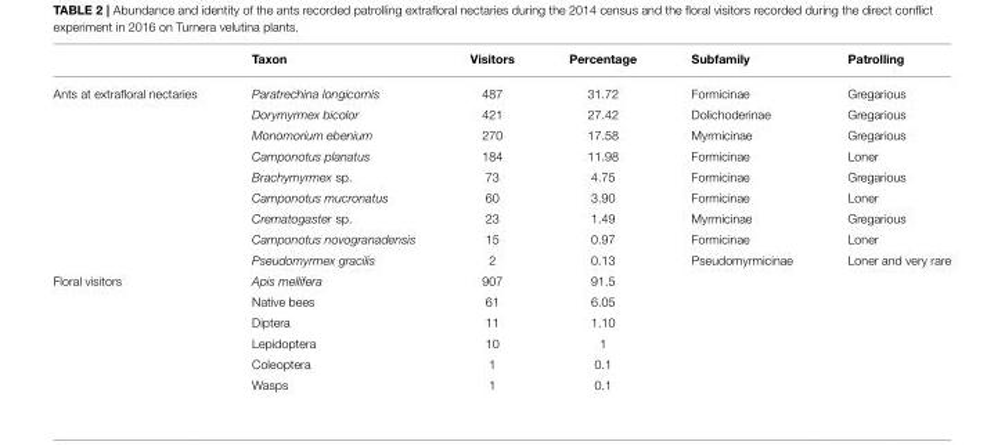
<table><thead><tr><td></td><td>Taxon</td><td>Visitors</td><td>Percentage</td><td>Subfamily</td><td>Patrolling</td></tr></thead><tbody><tr><td rowspan="9">Ants at extrafloral nectaries</td><td>Paratrechina longicornis</td><td>487</td><td>31.72</td><td>Formicinae</td><td>Gregarious</td></tr><tr><td>Dorymyrmex bicolor</td><td>421</td><td>27.42</td><td>Dolichoderinae</td><td>Gregarious</td></tr><tr><td>Monomorium ebenium</td><td>270</td><td>17.58</td><td>Myrmicinae</td><td>Gregarious</td></tr><tr><td>Camponotus planatus</td><td>184</td><td>11.98</td><td>Formicinae</td><td>Loner</td></tr><tr><td>Brachymyrmex sp.</td><td>73</td><td>4.75</td><td>Formicinae</td><td>Gregarious</td></tr><tr><td>Camponotus mucronatus</td><td>60</td><td>3.90</td><td>Formicinae</td><td>Loner</td></tr><tr><td>Crematogaster sp.</td><td>23</td><td>1.49</td><td>Myrmicinae</td><td>Gregarious</td></tr><tr><td>Camponotus novogranadensis</td><td>15</td><td>0.97</td><td>Formicinae</td><td>Loner</td></tr><tr><td>Pseudomyrmex gracilis</td><td>2</td><td>0.13</td><td>Pseudomyrmicinae</td><td>Loner and very rare</td></tr><tr><td rowspan="6">Floral visitors</td><td>Apis mellifera</td><td>907</td><td>91.5</td><td></td><td></td></tr><tr><td>Native bees</td><td>61</td><td>6.05</td><td></td><td></td></tr><tr><td>Diptera</td><td>11</td><td>1.10</td><td></td><td></td></tr><tr><td>Lepidoptera</td><td>10</td><td>1</td><td></td><td></td></tr><tr><td>Coleoptera</td><td>1</td><td>0.1</td><td></td><td></td></tr><tr><td>Wasps</td><td>1</td><td>0.1</td><td></td><td></td></tr></tbody></table>